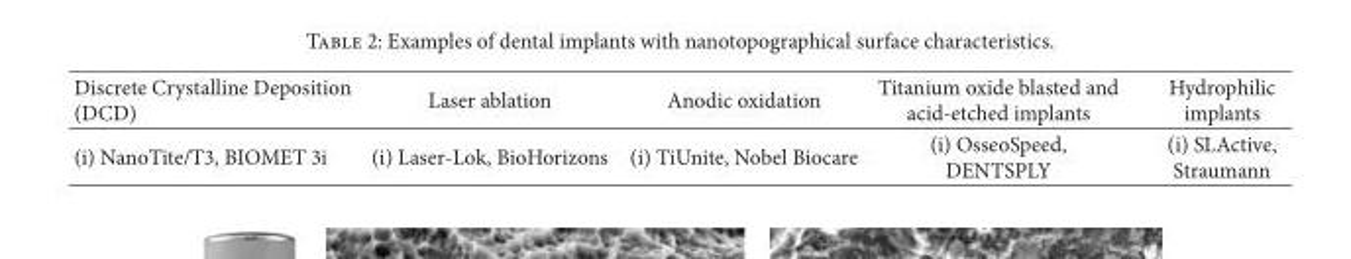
<table><thead><tr><td>Discrete Crystalline Deposition (DCD)</td><td>Laser ablation</td><td>Anodic oxidation</td><td>Titanium oxide blasted and acid-etched implants</td><td>Hydrophilic implants</td></tr></thead><tbody><tr><td>(i) NanoTite/T3, BIOMET 3i</td><td>(i) Laser-Lok, BioHorizons</td><td>(i) TiUnite, Nobel Biocare</td><td>(i) OsseoSpeed, DENTSPLY</td><td>(i) SLActive, Straumann</td></tr></tbody></table>